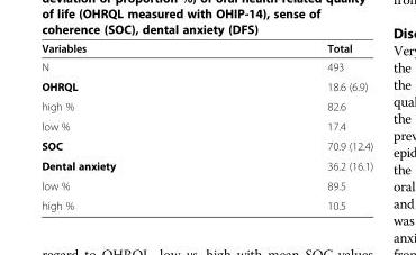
<table><thead><tr><td>Variables</td><td>Total</td></tr></thead><tbody><tr><td>N</td><td>493</td></tr><tr><td>OHRQL</td><td>18.6 (6.9)</td></tr><tr><td>high %</td><td>82.6</td></tr><tr><td>low %</td><td>17.4</td></tr><tr><td>SOC</td><td>70.9 (12.4)</td></tr><tr><td>Dental anxiety</td><td>36.2 (16.1)</td></tr><tr><td>low %</td><td>89.5</td></tr><tr><td>high %</td><td>10.5</td></tr></tbody></table>